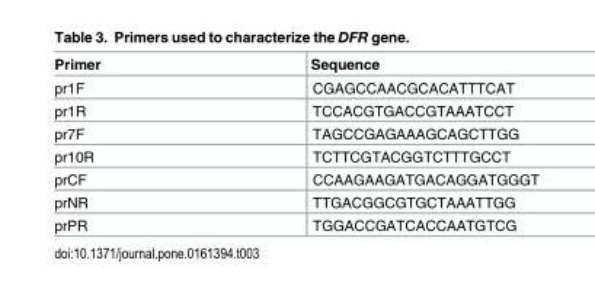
<table><thead><tr><td>Primer</td><td>Sequence</td></tr></thead><tbody><tr><td>pr1F</td><td>CGAGCCAACGCACATTTCAT</td></tr><tr><td>pr1R</td><td>TCCACGTGACCGTAAATCCT</td></tr><tr><td>pr7F</td><td>TAGCCGAGAAAGCAGCTTGG</td></tr><tr><td>pr10R</td><td>TCTTCGTACGGTCTTTGCCT</td></tr><tr><td>prCF</td><td>CCAAGAAGATGACAGGATGGGT</td></tr><tr><td>prNR</td><td>TTGACGGCGTGCTAAATTGG</td></tr><tr><td>prPR</td><td>TGGACCGATCACCAATGTCG</td></tr></tbody></table>